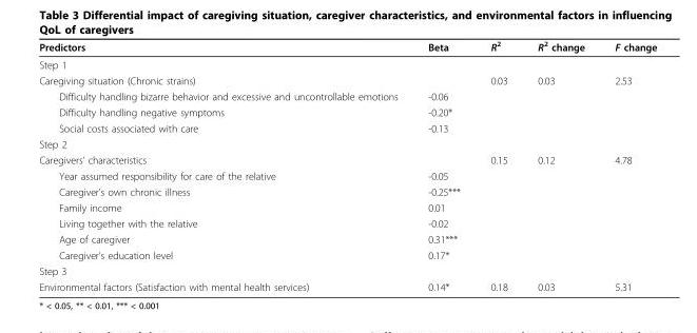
<table><thead><tr><td>Predictors</td><td>Beta</td><td>R<sup>2</sup></td><td>R<sup>2</sup> change</td><td>F change</td></tr></thead><tbody><tr><td colspan="5">Step 1</td></tr><tr><td>Caregiving situation (Chronic strains)</td><td></td><td>0.03</td><td>0.03</td><td>2.53</td></tr><tr><td>Difficulty handling bizarre behavior and excessive and uncontrollable emotions</td><td>-0.06</td><td></td><td></td><td></td></tr><tr><td>Difficulty handling negative symptoms</td><td>-0.20*</td><td></td><td></td><td></td></tr><tr><td>Social costs associated with care</td><td>-0.13</td><td></td><td></td><td></td></tr><tr><td colspan="5">Step 2</td></tr><tr><td>Caregivers’ characteristics</td><td></td><td>0.15</td><td>0.12</td><td>4.78</td></tr><tr><td>Year assumed responsibility for care of the relative</td><td>-0.05</td><td></td><td></td><td></td></tr><tr><td>Caregiver’s own chronic illness</td><td>-0.25***</td><td></td><td></td><td></td></tr><tr><td>Family income</td><td>0.01</td><td></td><td></td><td></td></tr><tr><td>Living together with the relative</td><td>-0.02</td><td></td><td></td><td></td></tr><tr><td>Age of caregiver</td><td>0.31***</td><td></td><td></td><td></td></tr><tr><td>Caregiver’s education level</td><td>0.17*</td><td></td><td></td><td></td></tr><tr><td colspan="5">Step 3</td></tr><tr><td>Environmental factors (Satisfaction with mental health services)</td><td>0.14*</td><td>0.18</td><td>0.03</td><td>5.31</td></tr></tbody></table>